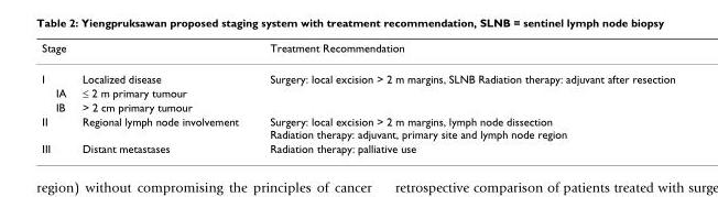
<table><thead><tr><td>Stage</td><td></td><td>Treatment Recommendation</td></tr></thead><tbody><tr><td>I</td><td>Localized disease</td><td>Surgery: local excision &gt; 2 m margins, SLNB Radiation therapy: adjuvant after resection</td></tr><tr><td>IA</td><td>≤ 2 m primary tumour</td><td></td></tr><tr><td>IB</td><td>&gt; 2 cm primary tumour</td><td></td></tr><tr><td>II</td><td>Regional lymph node involvement</td><td>Surgery: local excision &gt; 2 m margins, lymph node dissection Radiation therapy: adjuvant, primary site and lymph node region</td></tr><tr><td>III</td><td>Distant metastases</td><td>Radiation therapy: palliative use</td></tr></tbody></table>